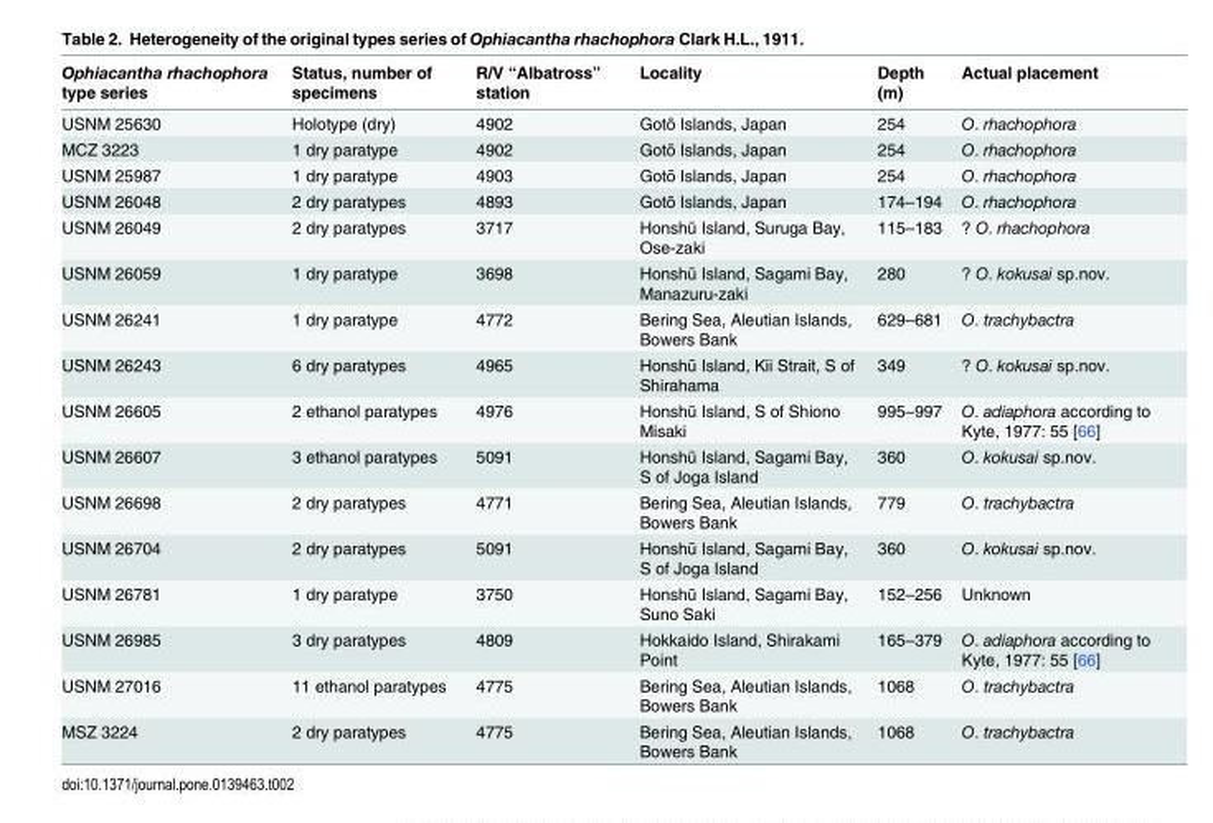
<table><thead><tr><td>Ophiacantha rhachophora type series</td><td>Status, number of specimens</td><td>R/V “Albatross” station</td><td>Locality</td><td>Depth (m)</td><td>Actual placement</td></tr></thead><tbody><tr><td>USNM 25630</td><td>Holotype (dry)</td><td>4902</td><td>Gotō Islands, Japan</td><td>254</td><td>O. rhachophora</td></tr><tr><td>MCZ 3223</td><td>1 dry paratype</td><td>4902</td><td>Gotō Islands, Japan</td><td>254</td><td>O. rhachophora</td></tr><tr><td>USNM 25987</td><td>1 dry paratype</td><td>4903</td><td>Gotō Islands, Japan</td><td>254</td><td>O. rhachophora</td></tr><tr><td>USNM 26048</td><td>2 dry paratypes</td><td>4893</td><td>Gotō Islands, Japan</td><td>174–194</td><td>O. rhachophora</td></tr><tr><td>USNM 26049</td><td>2 dry paratypes</td><td>3717</td><td>Honshū Island, Suruga Bay, Ose-zaki</td><td>115–183</td><td>? O. rhachophora</td></tr><tr><td>USNM 26059</td><td>1 dry paratype</td><td>3698</td><td>Honshū Island, Sagami Bay, Manazuru-zaki</td><td>280</td><td>? O. kokusai sp.nov.</td></tr><tr><td>USNM 26241</td><td>1 dry paratype</td><td>4772</td><td>Bering Sea, Aleutian Islands, Bowers Bank</td><td>629–681</td><td>O. trachybactra</td></tr><tr><td>USNM 26243</td><td>6 dry paratypes</td><td>4965</td><td>Honshū Island, Kii Strait, S of Shirahama</td><td>349</td><td>? O. kokusai sp.nov.</td></tr><tr><td>USNM 26605</td><td>2 ethanol paratypes</td><td>4976</td><td>Honshū Island, S of Shiono Misaki</td><td>995–997</td><td>O. adiaphora according to Kyte, 1977: 55 [66]</td></tr><tr><td>USNM 26607</td><td>3 ethanol paratypes</td><td>5091</td><td>Honshū Island, Sagami Bay, S of Joga Island</td><td>360</td><td>O. kokusai sp.nov.</td></tr><tr><td>USNM 26698</td><td>2 dry paratypes</td><td>4771</td><td>Bering Sea, Aleutian Islands, Bowers Bank</td><td>779</td><td>O. trachybactra</td></tr><tr><td>USNM 26704</td><td>2 dry paratypes</td><td>5091</td><td>Honshū Island, Sagami Bay, S of Joga Island</td><td>360</td><td>O. kokusai sp.nov.</td></tr><tr><td>USNM 26781</td><td>1 dry paratype</td><td>3750</td><td>Honshū Island, Sagami Bay, Suno Saki</td><td>152–256</td><td>Unknown</td></tr><tr><td>USNM 26985</td><td>3 dry paratypes</td><td>4809</td><td>Hokkaido Island, Shirakami Point</td><td>165–379</td><td>O. adiaphora according to Kyte, 1977: 55 [66]</td></tr><tr><td>USNM 27016</td><td>11 ethanol paratypes</td><td>4775</td><td>Bering Sea, Aleutian Islands, Bowers Bank</td><td>1068</td><td>O. trachybactra</td></tr><tr><td>MSZ 3224</td><td>2 dry paratypes</td><td>4775</td><td>Bering Sea, Aleutian Islands, Bowers Bank</td><td>1068</td><td>O. trachybactra</td></tr></tbody></table>